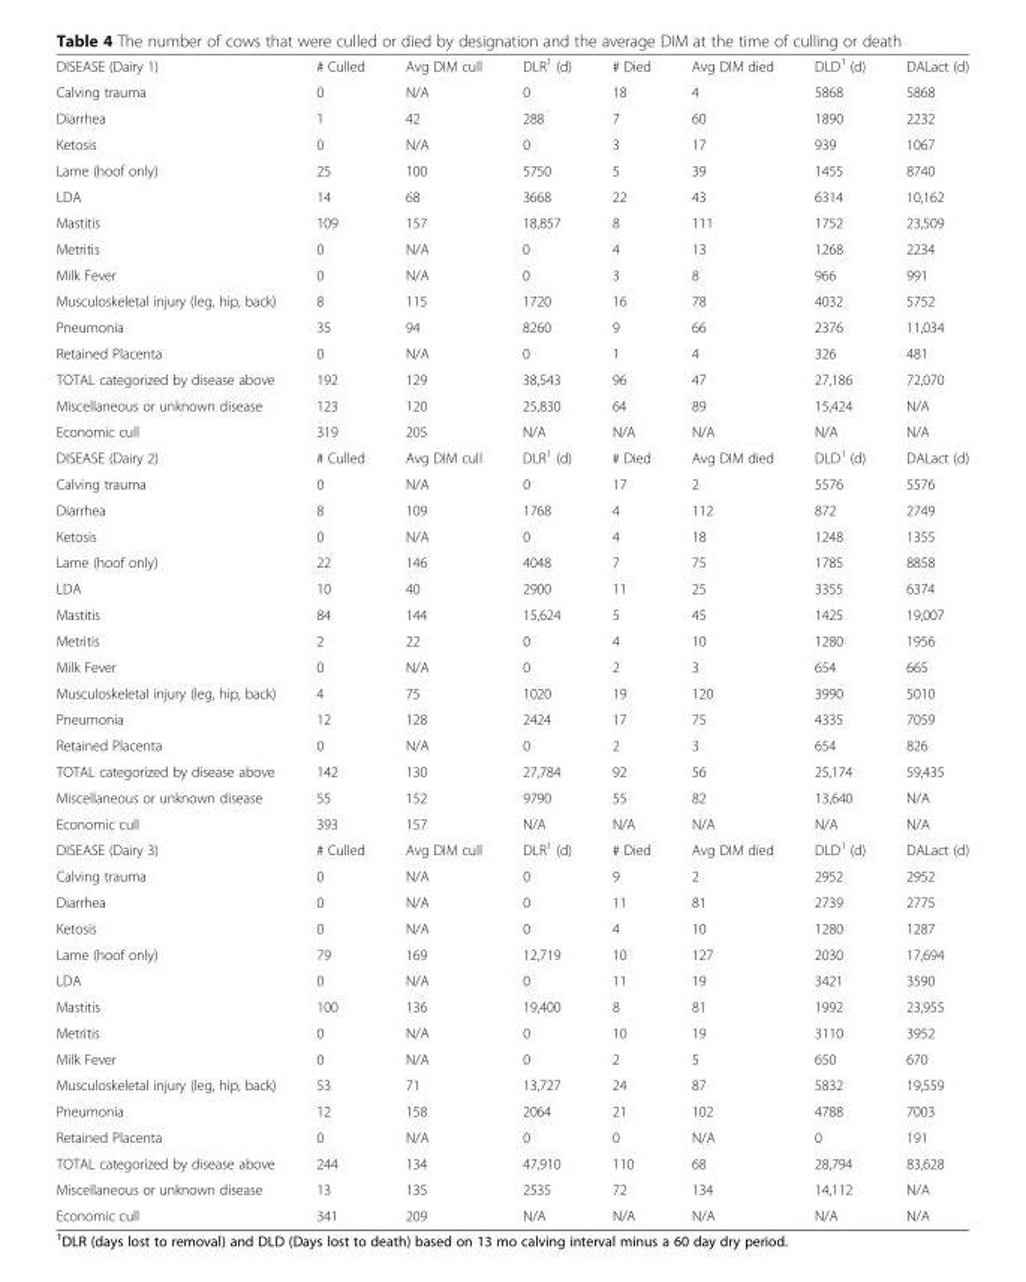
<table><tbody><tr><td>DISEASE (Dairy 1)</td><td># Culled</td><td>Avg DIM cull</td><td>DLR<sup>1</sup> (d)</td><td># Died</td><td>Avg DIM died</td><td>DLD<sup>1</sup> (d)</td><td>DALact (d)</td></tr><tr><td>Calving trauma</td><td>0</td><td>N/A</td><td>0</td><td>18</td><td>4</td><td>5868</td><td>5868</td></tr><tr><td>Diarrhea</td><td>1</td><td>42</td><td>288</td><td>7</td><td>60</td><td>1890</td><td>2232</td></tr><tr><td>Ketosis</td><td>0</td><td>N/A</td><td>0</td><td>3</td><td>17</td><td>939</td><td>1067</td></tr><tr><td>Lame (hoof only)</td><td>25</td><td>100</td><td>5750</td><td>5</td><td>39</td><td>1455</td><td>8740</td></tr><tr><td>LDA</td><td>14</td><td>68</td><td>3668</td><td>22</td><td>43</td><td>6314</td><td>10,162</td></tr><tr><td>Mastitis</td><td>109</td><td>157</td><td>18,857</td><td>8</td><td>111</td><td>1752</td><td>23,509</td></tr><tr><td>Metritis</td><td>0</td><td>N/A</td><td>0</td><td>4</td><td>13</td><td>1268</td><td>2234</td></tr><tr><td>Milk Fever</td><td>0</td><td>N/A</td><td>0</td><td>3</td><td>8</td><td>966</td><td>991</td></tr><tr><td>Musculoskeletal injury (leg, hip, back)</td><td>8</td><td>115</td><td>1720</td><td>16</td><td>78</td><td>4032</td><td>5752</td></tr><tr><td>Pneumonia</td><td>35</td><td>94</td><td>8260</td><td>9</td><td>66</td><td>2376</td><td>11,034</td></tr><tr><td>Retained Placenta</td><td>0</td><td>N/A</td><td>0</td><td>1</td><td>4</td><td>326</td><td>481</td></tr><tr><td>TOTAL categorized by disease above</td><td>192</td><td>129</td><td>38,543</td><td>96</td><td>47</td><td>27,186</td><td>72,070</td></tr><tr><td>Miscellaneous or unknown disease</td><td>123</td><td>120</td><td>25,830</td><td>64</td><td>89</td><td>15,424</td><td>N/A</td></tr><tr><td>Economic cull</td><td>319</td><td>205</td><td>N/A</td><td>N/A</td><td>N/A</td><td>N/A</td><td>N/A</td></tr><tr><td>DISEASE (Dairy 2)</td><td># Culled</td><td>Avg DIM cull</td><td>DLR<sup>1</sup> (d)</td><td># Died</td><td>Avg DIM died</td><td>DLD<sup>1</sup> (d)</td><td>DALact (d)</td></tr><tr><td>Calving trauma</td><td>0</td><td>N/A</td><td>0</td><td>17</td><td>2</td><td>5576</td><td>5576</td></tr><tr><td>Diarrhea</td><td>8</td><td>109</td><td>1768</td><td>4</td><td>112</td><td>872</td><td>2749</td></tr><tr><td>Ketosis</td><td>0</td><td>N/A</td><td>0</td><td>4</td><td>18</td><td>1248</td><td>1355</td></tr><tr><td>Lame (hoof only)</td><td>22</td><td>146</td><td>4048</td><td>7</td><td>75</td><td>1785</td><td>8858</td></tr><tr><td>LDA</td><td>10</td><td>40</td><td>2900</td><td>11</td><td>25</td><td>3355</td><td>6374</td></tr><tr><td>Mastitis</td><td>84</td><td>144</td><td>15,624</td><td>5</td><td>45</td><td>1425</td><td>19,007</td></tr><tr><td>Metritis</td><td>2</td><td>22</td><td>0</td><td>4</td><td>10</td><td>1280</td><td>1956</td></tr><tr><td>Milk Fever</td><td>0</td><td>N/A</td><td>0</td><td>2</td><td>3</td><td>654</td><td>665</td></tr><tr><td>Musculoskeletal injury (leg, hip, back)</td><td>4</td><td>75</td><td>1020</td><td>19</td><td>120</td><td>3990</td><td>5010</td></tr><tr><td>Pneumonia</td><td>12</td><td>128</td><td>2424</td><td>17</td><td>75</td><td>4335</td><td>7059</td></tr><tr><td>Retained Placenta</td><td>0</td><td>N/A</td><td>0</td><td>2</td><td>3</td><td>654</td><td>826</td></tr><tr><td>TOTAL categorized by disease above</td><td>142</td><td>130</td><td>27,784</td><td>92</td><td>56</td><td>25,174</td><td>59,435</td></tr><tr><td>Miscellaneous or unknown disease</td><td>55</td><td>152</td><td>9790</td><td>55</td><td>82</td><td>13,640</td><td>N/A</td></tr><tr><td>Economic cull</td><td>393</td><td>157</td><td>N/A</td><td>N/A</td><td>N/A</td><td>N/A</td><td>N/A</td></tr><tr><td>DISEASE (Dairy 3)</td><td># Culled</td><td>Avg DIM cull</td><td>DLR<sup>1</sup> (d)</td><td># Died</td><td>Avg DIM died</td><td>DLD<sup>1</sup> (d)</td><td>DALact (d)</td></tr><tr><td>Calving trauma</td><td>0</td><td>N/A</td><td>0</td><td>9</td><td>2</td><td>2952</td><td>2952</td></tr><tr><td>Diarrhea</td><td>0</td><td>N/A</td><td>0</td><td>11</td><td>81</td><td>2739</td><td>2775</td></tr><tr><td>Ketosis</td><td>0</td><td>N/A</td><td>0</td><td>4</td><td>10</td><td>1280</td><td>1287</td></tr><tr><td>Lame (hoof only)</td><td>79</td><td>169</td><td>12,719</td><td>10</td><td>127</td><td>2030</td><td>17,694</td></tr><tr><td>LDA</td><td>0</td><td>N/A</td><td>0</td><td>11</td><td>19</td><td>3421</td><td>3590</td></tr><tr><td>Mastitis</td><td>100</td><td>136</td><td>19,400</td><td>8</td><td>81</td><td>1992</td><td>23,955</td></tr><tr><td>Metritis</td><td>0</td><td>N/A</td><td>0</td><td>10</td><td>19</td><td>3110</td><td>3952</td></tr><tr><td>Milk Fever</td><td>0</td><td>N/A</td><td>0</td><td>2</td><td>5</td><td>650</td><td>670</td></tr><tr><td>Musculoskeletal injury (leg, hip, back)</td><td>53</td><td>71</td><td>13,727</td><td>24</td><td>87</td><td>5832</td><td>19,559</td></tr><tr><td>Pneumonia</td><td>12</td><td>158</td><td>2064</td><td>21</td><td>102</td><td>4788</td><td>7003</td></tr><tr><td>Retained Placenta</td><td>0</td><td>N/A</td><td>0</td><td>0</td><td>N/A</td><td>0</td><td>191</td></tr><tr><td>TOTAL categorized by disease above</td><td>244</td><td>134</td><td>47,910</td><td>110</td><td>68</td><td>28,794</td><td>83,628</td></tr><tr><td>Miscellaneous or unknown disease</td><td>13</td><td>135</td><td>2535</td><td>72</td><td>134</td><td>14,112</td><td>N/A</td></tr><tr><td>Economic cull</td><td>341</td><td>209</td><td>N/A</td><td>N/A</td><td>N/A</td><td>N/A</td><td>N/A</td></tr></tbody></table>